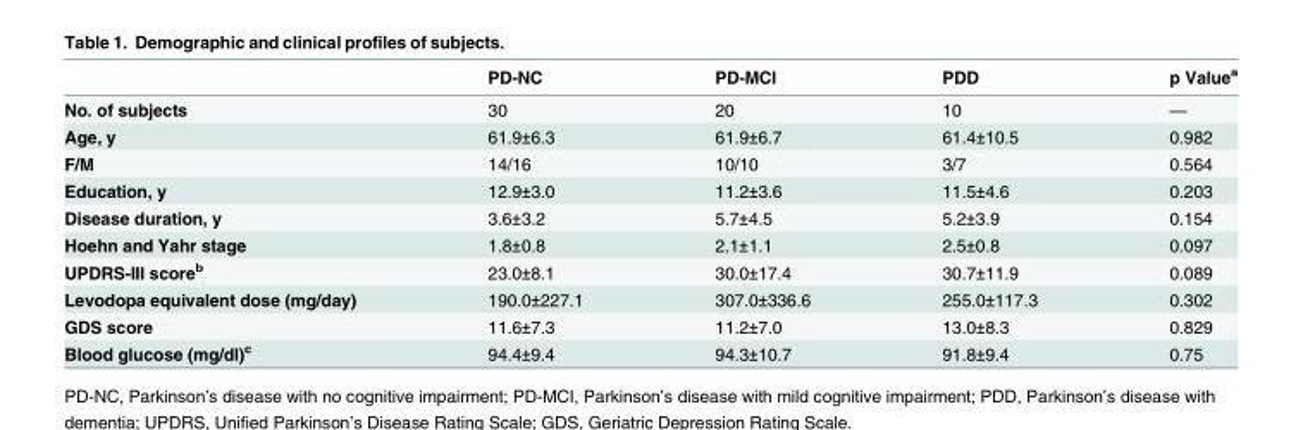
<table><thead><tr><td></td><td>PD-NC</td><td>PD-MCI</td><td>PDD</td><td>p Value<sup>a</sup></td></tr></thead><tbody><tr><td>No. of subjects</td><td>30</td><td>20</td><td>10</td><td>—</td></tr><tr><td>Age, y</td><td>61.9±6.3</td><td>61.9±6.7</td><td>61.4±10.5</td><td>0.982</td></tr><tr><td>F/M</td><td>14/16</td><td>10/10</td><td>3/7</td><td>0.564</td></tr><tr><td>Education, y</td><td>12.9±3.0</td><td>11.2±3.6</td><td>11.5±4.6</td><td>0.203</td></tr><tr><td>Disease duration, y</td><td>3.6±3.2</td><td>5.7±4.5</td><td>5.2±3.9</td><td>0.154</td></tr><tr><td>Hoehn and Yahr stage</td><td>1.8±0.8</td><td>2.1±1.1</td><td>2.5±0.8</td><td>0.097</td></tr><tr><td>UPDRS-III score<sup>b</sup></td><td>23.0±8.1</td><td>30.0±17.4</td><td>30.7±11.9</td><td>0.089</td></tr><tr><td>Levodopa equivalent dose (mg/day)</td><td>190.0±227.1</td><td>307.0±336.6</td><td>255.0±117.3</td><td>0.302</td></tr><tr><td>GDS score</td><td>11.6±7.3</td><td>11.2±7.0</td><td>13.0±8.3</td><td>0.829</td></tr><tr><td>Blood glucose (mg/dl)<sup>c</sup></td><td>94.4±9.4</td><td>94.3±10.7</td><td>91.8±9.4</td><td>0.75</td></tr></tbody></table>